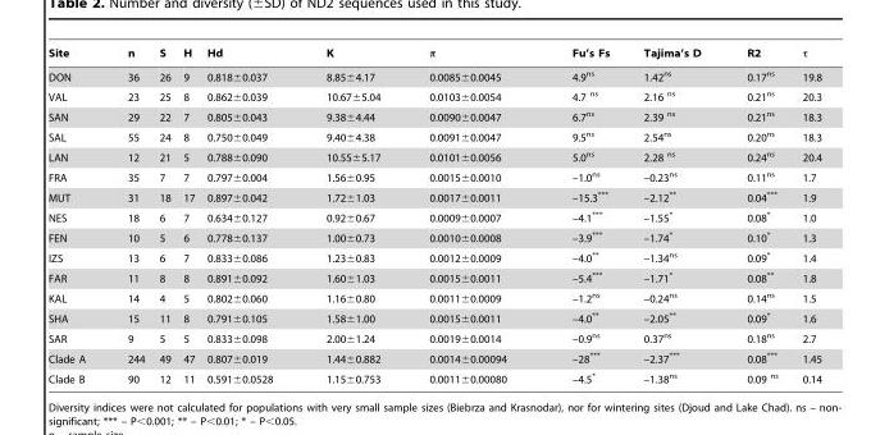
<table><thead><tr><td>Site</td><td>n</td><td>S</td><td>H</td><td>Hd</td><td>K</td><td>π</td><td>Fu’s Fs</td><td>Tajima’s D</td><td>R2</td><td>τ</td></tr></thead><tbody><tr><td>DON</td><td>36</td><td>26</td><td>9</td><td>0.818±0.037</td><td>8.85±4.17</td><td>0.0085±0.0045</td><td>4.9<sup>ns</sup></td><td>1.42<sup>ns</sup></td><td>0.17<sup>ns</sup></td><td>19.8</td></tr><tr><td>VAL</td><td>23</td><td>25</td><td>8</td><td>0.862±0.039</td><td>10.67±5.04</td><td>0.0103±0.0054</td><td>4.7 <sup>ns</sup></td><td>2.16 <sup>ns</sup></td><td>0.21<sup>ns</sup></td><td>20.3</td></tr><tr><td>SAN</td><td>29</td><td>22</td><td>7</td><td>0.805±0.043</td><td>9.38±4.44</td><td>0.0090±0.0047</td><td>6.7<sup>ns</sup></td><td>2.39 <sup>ns</sup></td><td>0.21<sup>ns</sup></td><td>18.3</td></tr><tr><td>SAL</td><td>55</td><td>24</td><td>8</td><td>0.750±0.049</td><td>9.40±4.38</td><td>0.0091±0.0047</td><td>9.5<sup>ns</sup></td><td>2.54<sup>ns</sup></td><td>0.20<sup>ns</sup></td><td>18.3</td></tr><tr><td>LAN</td><td>12</td><td>21</td><td>5</td><td>0.788±0.090</td><td>10.55±5.17</td><td>0.0101±0.0056</td><td>5.0<sup>ns</sup></td><td>2.28 <sup>ns</sup></td><td>0.24<sup>ns</sup></td><td>20.4</td></tr><tr><td>FRA</td><td>35</td><td>7</td><td>7</td><td>0.797±0.004</td><td>1.56±0.95</td><td>0.0015±0.0010</td><td>–1.0<sup>ns</sup></td><td>–0.23<sup>ns</sup></td><td>0.11<sup>ns</sup></td><td>1.7</td></tr><tr><td>MUT</td><td>31</td><td>18</td><td>17</td><td>0.897±0.042</td><td>1.72±1.03</td><td>0.0017±0.0011</td><td>–15.3***</td><td>–2.12**</td><td>0.04***</td><td>1.9</td></tr><tr><td>NES</td><td>18</td><td>6</td><td>7</td><td>0.634±0.127</td><td>0.92±0.67</td><td>0.0009±0.0007</td><td>–4.1***</td><td>–1.55*</td><td>0.08*</td><td>1.0</td></tr><tr><td>FEN</td><td>10</td><td>5</td><td>6</td><td>0.778±0.137</td><td>1.00±0.73</td><td>0.0010±0.0008</td><td>–3.9***</td><td>–1.74*</td><td>0.10*</td><td>1.3</td></tr><tr><td>IZS</td><td>13</td><td>6</td><td>7</td><td>0.833±0.086</td><td>1.23±0.83</td><td>0.0012±0.0009</td><td>–4.0**</td><td>–1.34<sup>ns</sup></td><td>0.09*</td><td>1.4</td></tr><tr><td>FAR</td><td>11</td><td>8</td><td>8</td><td>0.891±0.092</td><td>1.60±1.03</td><td>0.0015±0.0011</td><td>–5.4***</td><td>–1.71*</td><td>0.08**</td><td>1.8</td></tr><tr><td>KAL</td><td>14</td><td>4</td><td>5</td><td>0.802±0.060</td><td>1.16±0.80</td><td>0.0011±0.0009</td><td>–1.2<sup>ns</sup></td><td>–0.24<sup>ns</sup></td><td>0.14<sup>ns</sup></td><td>1.5</td></tr><tr><td>SHA</td><td>15</td><td>11</td><td>8</td><td>0.791±0.105</td><td>1.58±1.00</td><td>0.0015±0.0011</td><td>–4.0**</td><td>–2.05**</td><td>0.09*</td><td>1.6</td></tr><tr><td>SAR</td><td>9</td><td>5</td><td>5</td><td>0.833±0.098</td><td>2.00±1.24</td><td>0.0019±0.0014</td><td>–0.9<sup>ns</sup></td><td>0.37<sup>ns</sup></td><td>0.18<sup>ns</sup></td><td>2.7</td></tr><tr><td>Clade A</td><td>244</td><td>49</td><td>47</td><td>0.807±0.019</td><td>1.44±0.882</td><td>0.0014±0.00094</td><td>–28***</td><td>–2.37***</td><td>0.08***</td><td>1.45</td></tr><tr><td>Clade B</td><td>90</td><td>12</td><td>11</td><td>0.591±0.0528</td><td>1.15±0.753</td><td>0.0011±0.00080</td><td>–4.5*</td><td>–1.38<sup>ns</sup></td><td>0.09 <sup>ns</sup></td><td>0.14</td></tr></tbody></table>